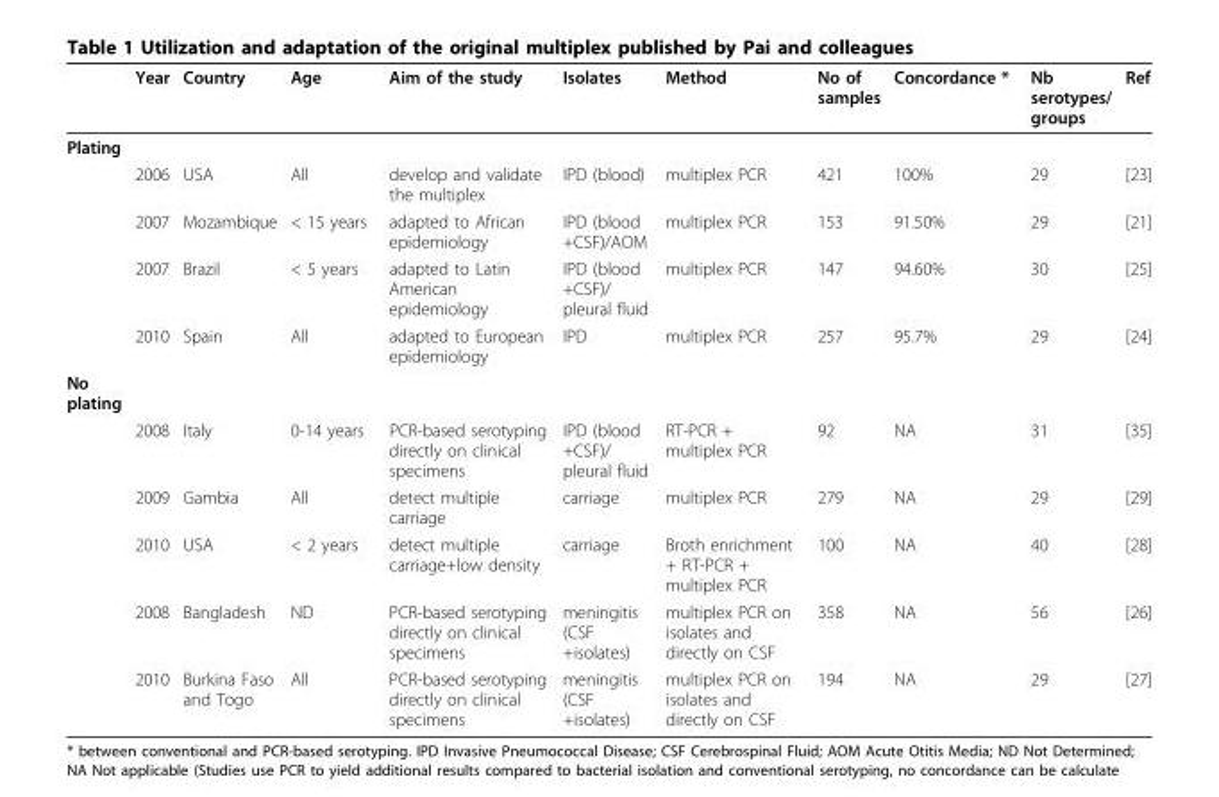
<table><thead><tr><td></td><td>Year</td><td>Country</td><td>Age</td><td>Aim of the study</td><td>Isolates</td><td>Method</td><td>No of samples</td><td>Concordance *</td><td>Nb serotypes/ groups</td><td>Ref</td></tr></thead><tbody><tr><td colspan="11">Plating</td></tr><tr><td></td><td>2006</td><td>USA</td><td>All</td><td>develop and validate the multiplex</td><td>IPD (blood)</td><td>multiplex PCR</td><td>421</td><td>100%</td><td>29</td><td>[23]</td></tr><tr><td></td><td>2007</td><td>Mozambique</td><td>&lt; 15 years</td><td>adapted to African epidemiology</td><td>IPD (blood +CSF)/AOM</td><td>multiplex PCR</td><td>153</td><td>91.50%</td><td>29</td><td>[21]</td></tr><tr><td></td><td>2007</td><td>Brazil</td><td>&lt; 5 years</td><td>adapted to Latin American epidemiology</td><td>IPD (blood +CSF)/ pleural fluid</td><td>multiplex PCR</td><td>147</td><td>94.60%</td><td>30</td><td>[25]</td></tr><tr><td></td><td>2010</td><td>Spain</td><td>All</td><td>adapted to European epidemiology</td><td>IPD</td><td>multiplex PCR</td><td>257</td><td>95.7%</td><td>29</td><td>[24]</td></tr><tr><td colspan="11">No plating</td></tr><tr><td></td><td>2008</td><td>Italy</td><td>0-14 years</td><td>PCR-based serotyping directly on clinical specimens</td><td>IPD (blood +CSF)/ pleural fluid</td><td>RT-PCR + multiplex PCR</td><td>92</td><td>NA</td><td>31</td><td>[35]</td></tr><tr><td></td><td>2009</td><td>Gambia</td><td>All</td><td>detect multiple carriage</td><td>carriage</td><td>multiplex PCR</td><td>279</td><td>NA</td><td>29</td><td>[29]</td></tr><tr><td></td><td>2010</td><td>USA</td><td>&lt; 2 years</td><td>detect multiple carriage+low density</td><td>carriage</td><td>Broth enrichment + RT-PCR + multiplex PCR</td><td>100</td><td>NA</td><td>40</td><td>[28]</td></tr><tr><td></td><td>2008</td><td>Bangladesh</td><td>ND</td><td>PCR-based serotyping directly on clinical specimens</td><td>meningitis (CSF +isolates)</td><td>multiplex PCR on isolates and directly on CSF</td><td>358</td><td>NA</td><td>56</td><td>[26]</td></tr><tr><td></td><td>2010</td><td>Burkina Faso and Togo</td><td>All</td><td>PCR-based serotyping directly on clinical specimens</td><td>meningitis (CSF +isolates)</td><td>multiplex PCR on isolates and directly on CSF</td><td>194</td><td>NA</td><td>29</td><td>[27]</td></tr></tbody></table>